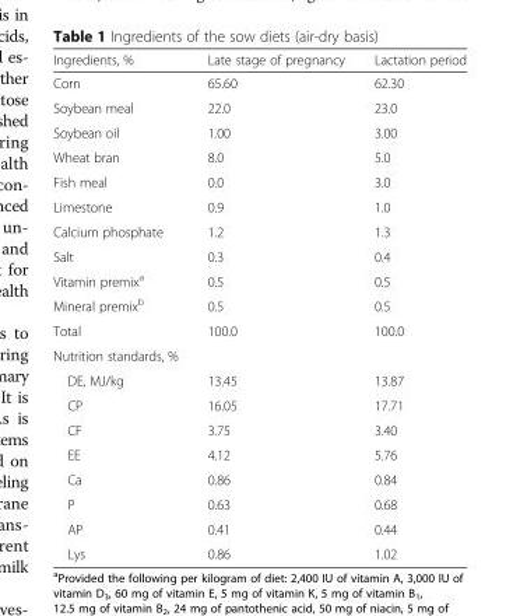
<table><thead><tr><td>Ingredients, %</td><td>Late stage of pregnancy</td><td>Lactation period</td></tr></thead><tbody><tr><td>Corn</td><td>65.60</td><td>62.30</td></tr><tr><td>Soybean meal</td><td>22.0</td><td>23.0</td></tr><tr><td>Soybean oil</td><td>1.00</td><td>3.00</td></tr><tr><td>Wheat bran</td><td>8.0</td><td>5.0</td></tr><tr><td>Fish meal</td><td>0.0</td><td>3.0</td></tr><tr><td>Limestone</td><td>0.9</td><td>1.0</td></tr><tr><td>Calcium phosphate</td><td>1.2</td><td>1.3</td></tr><tr><td>Salt</td><td>0.3</td><td>0.4</td></tr><tr><td>Vitamin premix<sup>a</sup></td><td>0.5</td><td>0.5</td></tr><tr><td>Mineral premix<sup>b</sup></td><td>0.5</td><td>0.5</td></tr><tr><td>Total</td><td>100.0</td><td>100.0</td></tr><tr><td colspan="3">Nutrition standards, %</td></tr><tr><td>DE, MJ/kg</td><td>13.45</td><td>13.87</td></tr><tr><td>CP</td><td>16.05</td><td>17.71</td></tr><tr><td>CF</td><td>3.75</td><td>3.40</td></tr><tr><td>EE</td><td>4.12</td><td>5.76</td></tr><tr><td>Ca</td><td>0.86</td><td>0.84</td></tr><tr><td>P</td><td>0.63</td><td>0.68</td></tr><tr><td>AP</td><td>0.41</td><td>0.44</td></tr><tr><td>Lys</td><td>0.86</td><td>1.02</td></tr></tbody></table>